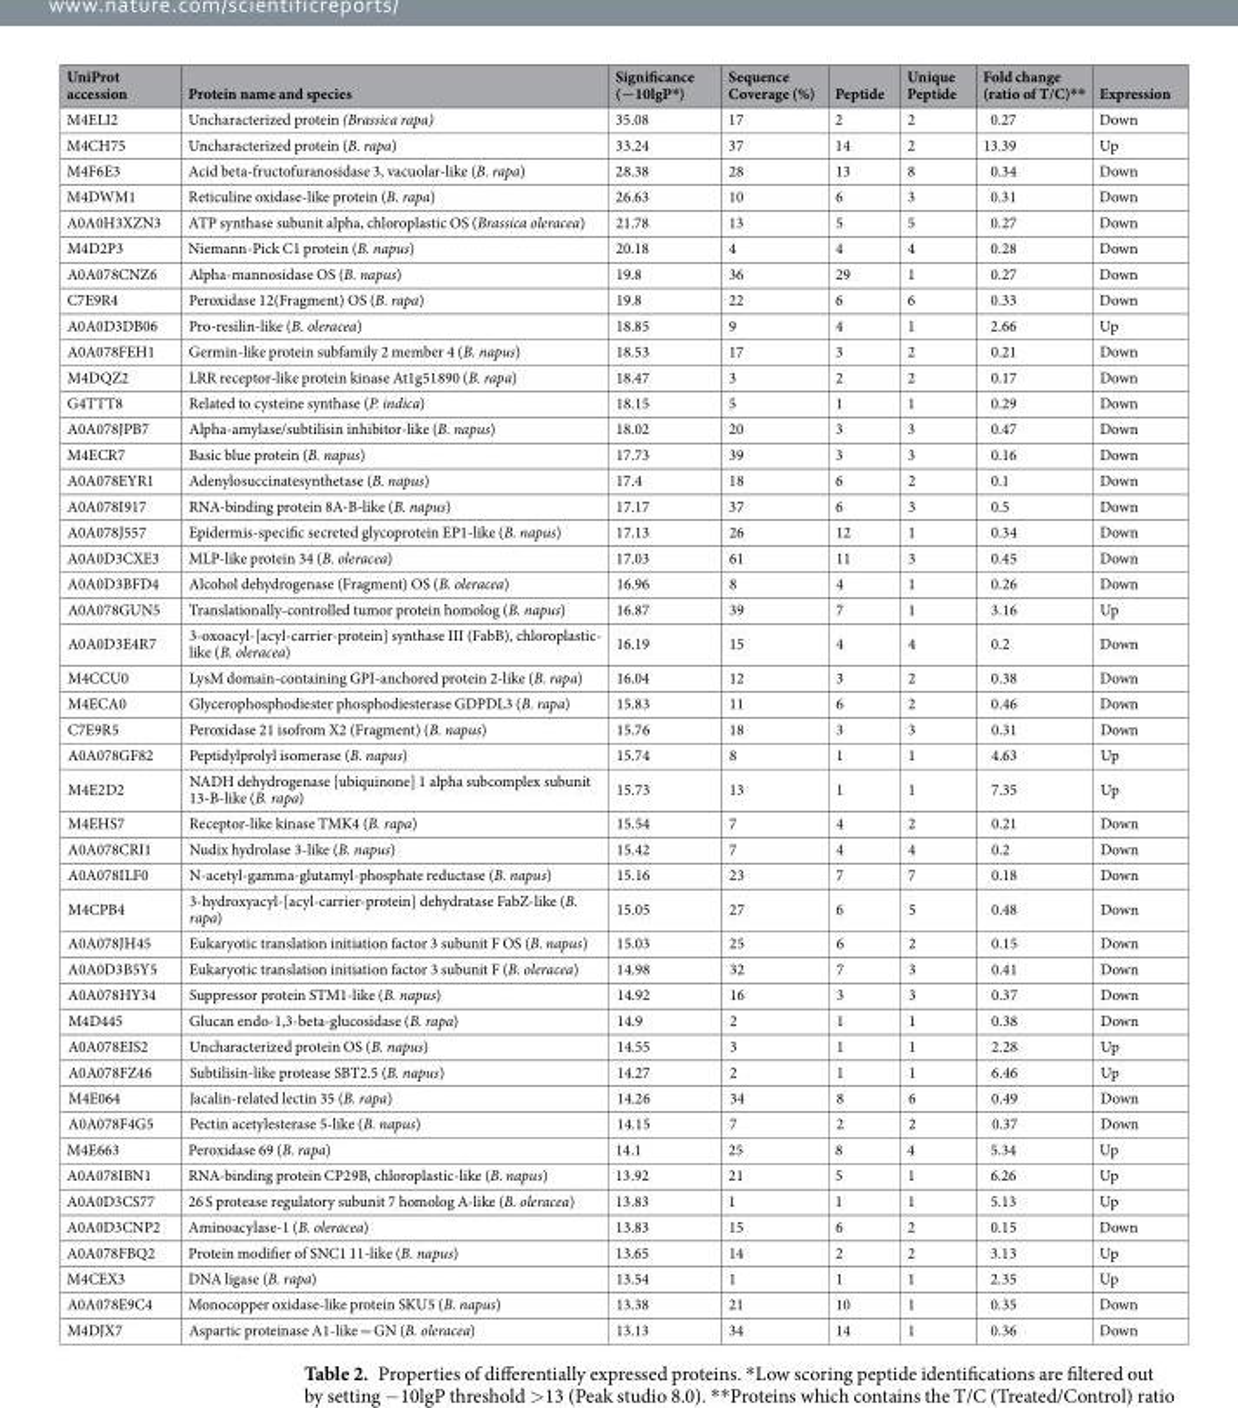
<table><thead><tr><td>UniProt accession</td><td>Protein name and species</td><td>Significance (−10lgP*)</td><td>Sequence Coverage (%)</td><td>Peptide</td><td>Unique Peptide</td><td>Fold change (ratio of T/C)**</td><td>Expression</td></tr></thead><tbody><tr><td>M4ELI2</td><td>Uncharacterized protein (Brassica rapa)</td><td>35.08</td><td>17</td><td>2</td><td>2</td><td>0.27</td><td>Down</td></tr><tr><td>M4CH75</td><td>Uncharacterized protein (B. rapa)</td><td>33.24</td><td>37</td><td>14</td><td>2</td><td>13.39</td><td>Up</td></tr><tr><td>M4F6E3</td><td>Acid beta-fructofuranosidase 3, vacuolar-like (B. rapa)</td><td>28.38</td><td>28</td><td>13</td><td>8</td><td>0.34</td><td>Down</td></tr><tr><td>M4DWM1</td><td>Reticuline oxidase-like protein (B. rapa)</td><td>26.63</td><td>10</td><td>6</td><td>3</td><td>0.31</td><td>Down</td></tr><tr><td>A0A0H3XZN3</td><td>ATP synthase subunit alpha, chloroplastic OS (Brassica oleracea)</td><td>21.78</td><td>13</td><td>5</td><td>5</td><td>0.27</td><td>Down</td></tr><tr><td>M4D2P3</td><td>Niemann-Pick C1 protein (B. napus)</td><td>20.18</td><td>4</td><td>4</td><td>4</td><td>0.28</td><td>Down</td></tr><tr><td>A0A078CNZ6</td><td>Alpha-mannosidase OS (B. napus)</td><td>19.8</td><td>36</td><td>29</td><td>1</td><td>0.27</td><td>Down</td></tr><tr><td>C7E9R4</td><td>Peroxidase 12(Fragment) OS (B. rapa)</td><td>19.8</td><td>22</td><td>6</td><td>6</td><td>0.33</td><td>Down</td></tr><tr><td>A0A0D3DB06</td><td>Pro-resilin-like (B. oleracea)</td><td>18.85</td><td>9</td><td>4</td><td>1</td><td>2.66</td><td>Up</td></tr><tr><td>A0A078FEH1</td><td>Germin-like protein subfamily 2 member 4 (B. napus)</td><td>18.53</td><td>17</td><td>3</td><td>2</td><td>0.21</td><td>Down</td></tr><tr><td>M4DQZ2</td><td>LRR receptor-like protein kinase At1g51890 (B. rapa)</td><td>18.47</td><td>3</td><td>2</td><td>2</td><td>0.17</td><td>Down</td></tr><tr><td>G4TTT8</td><td>Related to cysteine synthase (P. indica)</td><td>18.15</td><td>5</td><td>1</td><td>1</td><td>0.29</td><td>Down</td></tr><tr><td>A0A078JPB7</td><td>Alpha-amylase/subtilisin inhibitor-like (B. napus)</td><td>18.02</td><td>20</td><td>3</td><td>3</td><td>0.47</td><td>Down</td></tr><tr><td>M4ECR7</td><td>Basic blue protein (B. napus)</td><td>17.73</td><td>39</td><td>3</td><td>3</td><td>0.16</td><td>Down</td></tr><tr><td>A0A078EYR1</td><td>Adenylosuccinatesynthetase (B. napus)</td><td>17.4</td><td>18</td><td>6</td><td>2</td><td>0.1</td><td>Down</td></tr><tr><td>A0A078I917</td><td>RNA-binding protein 8A-B-like (B. napus)</td><td>17.17</td><td>37</td><td>6</td><td>3</td><td>0.5</td><td>Down</td></tr><tr><td>A0A078J557</td><td>Epidermis-specific secreted glycoprotein EP1-like (B. napus)</td><td>17.13</td><td>26</td><td>12</td><td>1</td><td>0.34</td><td>Down</td></tr><tr><td>A0A0D3CXE3</td><td>MLP-like protein 34 (B. oleracea)</td><td>17.03</td><td>61</td><td>11</td><td>3</td><td>0.45</td><td>Down</td></tr><tr><td>A0A0D3BFD4</td><td>Alcohol dehydrogenase (Fragment) OS (B. oleracea)</td><td>16.96</td><td>8</td><td>4</td><td>1</td><td>0.26</td><td>Down</td></tr><tr><td>A0A078GUN5</td><td>Translationally-controlled tumor protein homolog (B. napus)</td><td>16.87</td><td>39</td><td>7</td><td>1</td><td>3.16</td><td>Up</td></tr><tr><td>A0A0D3E4R7</td><td>3-oxoacyl-[acyl-carrier-protein] synthase III (FabB), chloroplastic- like (B. oleracea)</td><td>16.19</td><td>15</td><td>4</td><td>4</td><td>0.2</td><td>Down</td></tr><tr><td>M4CCU0</td><td>LysM domain-containing GPI-anchored protein 2-like (B. rapa)</td><td>16.04</td><td>12</td><td>3</td><td>2</td><td>0.38</td><td>Down</td></tr><tr><td>M4ECA0</td><td>Glycerophosphodiester phosphodiesterase GDPDL3 (B. rapa)</td><td>15.83</td><td>11</td><td>6</td><td>2</td><td>0.46</td><td>Down</td></tr><tr><td>C7E9R5</td><td>Peroxidase 21 isofrom X2 (Fragment) (B. napus)</td><td>15.76</td><td>18</td><td>3</td><td>3</td><td>0.31</td><td>Down</td></tr><tr><td>A0A078GF82</td><td>Peptidylprolyl isomerase (B. napus)</td><td>15.74</td><td>8</td><td>1</td><td>1</td><td>4.63</td><td>Up</td></tr><tr><td>M4E2D2</td><td>NADH dehydrogenase [ubiquinone] 1 alpha subcomplex subunit 13-B-like (B. rapa)</td><td>15.73</td><td>13</td><td>1</td><td>1</td><td>7.35</td><td>Up</td></tr><tr><td>M4EHS7</td><td>Receptor-like kinase TMK4 (B. rapa)</td><td>15.54</td><td>7</td><td>4</td><td>2</td><td>0.21</td><td>Down</td></tr><tr><td>A0A078CRI1</td><td>Nudix hydrolase 3-like (B. napus)</td><td>15.42</td><td>7</td><td>4</td><td>4</td><td>0.2</td><td>Down</td></tr><tr><td>A0A078ILF0</td><td>N-acetyl-gamma-glutamyl-phosphate reductase (B. napus)</td><td>15.16</td><td>23</td><td>7</td><td>7</td><td>0.18</td><td>Down</td></tr><tr><td>M4CPB4</td><td>3-hydroxyacyl-[acyl-carrier-protein] dehydratase FabZ-like (B. rapa)</td><td>15.05</td><td>27</td><td>6</td><td>5</td><td>0.48</td><td>Down</td></tr><tr><td>A0A078JH45</td><td>Eukaryotic translation initiation factor 3 subunit F OS (B. napus)</td><td>15.03</td><td>25</td><td>6</td><td>2</td><td>0.15</td><td>Down</td></tr><tr><td>A0A0D3B5Y5</td><td>Eukaryotic translation initiation factor 3 subunit F (B. oleracea)</td><td>14.98</td><td>32</td><td>7</td><td>3</td><td>0.41</td><td>Down</td></tr><tr><td>A0A078HY34</td><td>Suppressor protein STM1-like (B. napus)</td><td>14.92</td><td>16</td><td>3</td><td>3</td><td>0.37</td><td>Down</td></tr><tr><td>M4D445</td><td>Glucan endo-1,3-beta-glucosidase (B. rapa)</td><td>14.9</td><td>2</td><td>1</td><td>1</td><td>0.38</td><td>Down</td></tr><tr><td>A0A078EIS2</td><td>Uncharacterized protein OS (B. napus)</td><td>14.55</td><td>3</td><td>1</td><td>1</td><td>2.28</td><td>Up</td></tr><tr><td>A0A078FZ46</td><td>Subtilisin-like protease SBT2.5 (B. napus)</td><td>14.27</td><td>2</td><td>1</td><td>1</td><td>6.46</td><td>Up</td></tr><tr><td>M4E064</td><td>Jacalin-related lectin 35 (B. rapa)</td><td>14.26</td><td>34</td><td>8</td><td>6</td><td>0.49</td><td>Down</td></tr><tr><td>A0A078F4G5</td><td>Pectin acetylesterase 5-like (B. napus)</td><td>14.15</td><td>7</td><td>2</td><td>2</td><td>0.37</td><td>Down</td></tr><tr><td>M4E663</td><td>Peroxidase 69 (B. rapa)</td><td>14.1</td><td>25</td><td>8</td><td>4</td><td>5.34</td><td>Up</td></tr><tr><td>A0A078IBN1</td><td>RNA-binding protein CP29B, chloroplastic-like (B. napus)</td><td>13.92</td><td>21</td><td>5</td><td>1</td><td>6.26</td><td>Up</td></tr><tr><td>A0A0D3CS77</td><td>26 S protease regulatory subunit 7 homolog A-like (B. oleracea)</td><td>13.83</td><td>1</td><td>1</td><td>1</td><td>5.13</td><td>Up</td></tr><tr><td>A0A0D3CNP2</td><td>Aminoacylase-1 (B. oleracea)</td><td>13.83</td><td>15</td><td>6</td><td>2</td><td>0.15</td><td>Down</td></tr><tr><td>A0A078FBQ2</td><td>Protein modifier of SNC1 11-like (B. napus)</td><td>13.65</td><td>14</td><td>2</td><td>2</td><td>3.13</td><td>Up</td></tr><tr><td>M4CEX3</td><td>DNA ligase (B. rapa)</td><td>13.54</td><td>1</td><td>1</td><td>1</td><td>2.35</td><td>Up</td></tr><tr><td>A0A078E9C4</td><td>Monocopper oxidase-like protein SKU5 (B. napus)</td><td>13.38</td><td>21</td><td>10</td><td>1</td><td>0.35</td><td>Down</td></tr><tr><td>M4DJX7</td><td>Aspartic proteinase A1-like = GN (B. oleracea)</td><td>13.13</td><td>34</td><td>14</td><td>1</td><td>0.36</td><td>Down</td></tr></tbody></table>